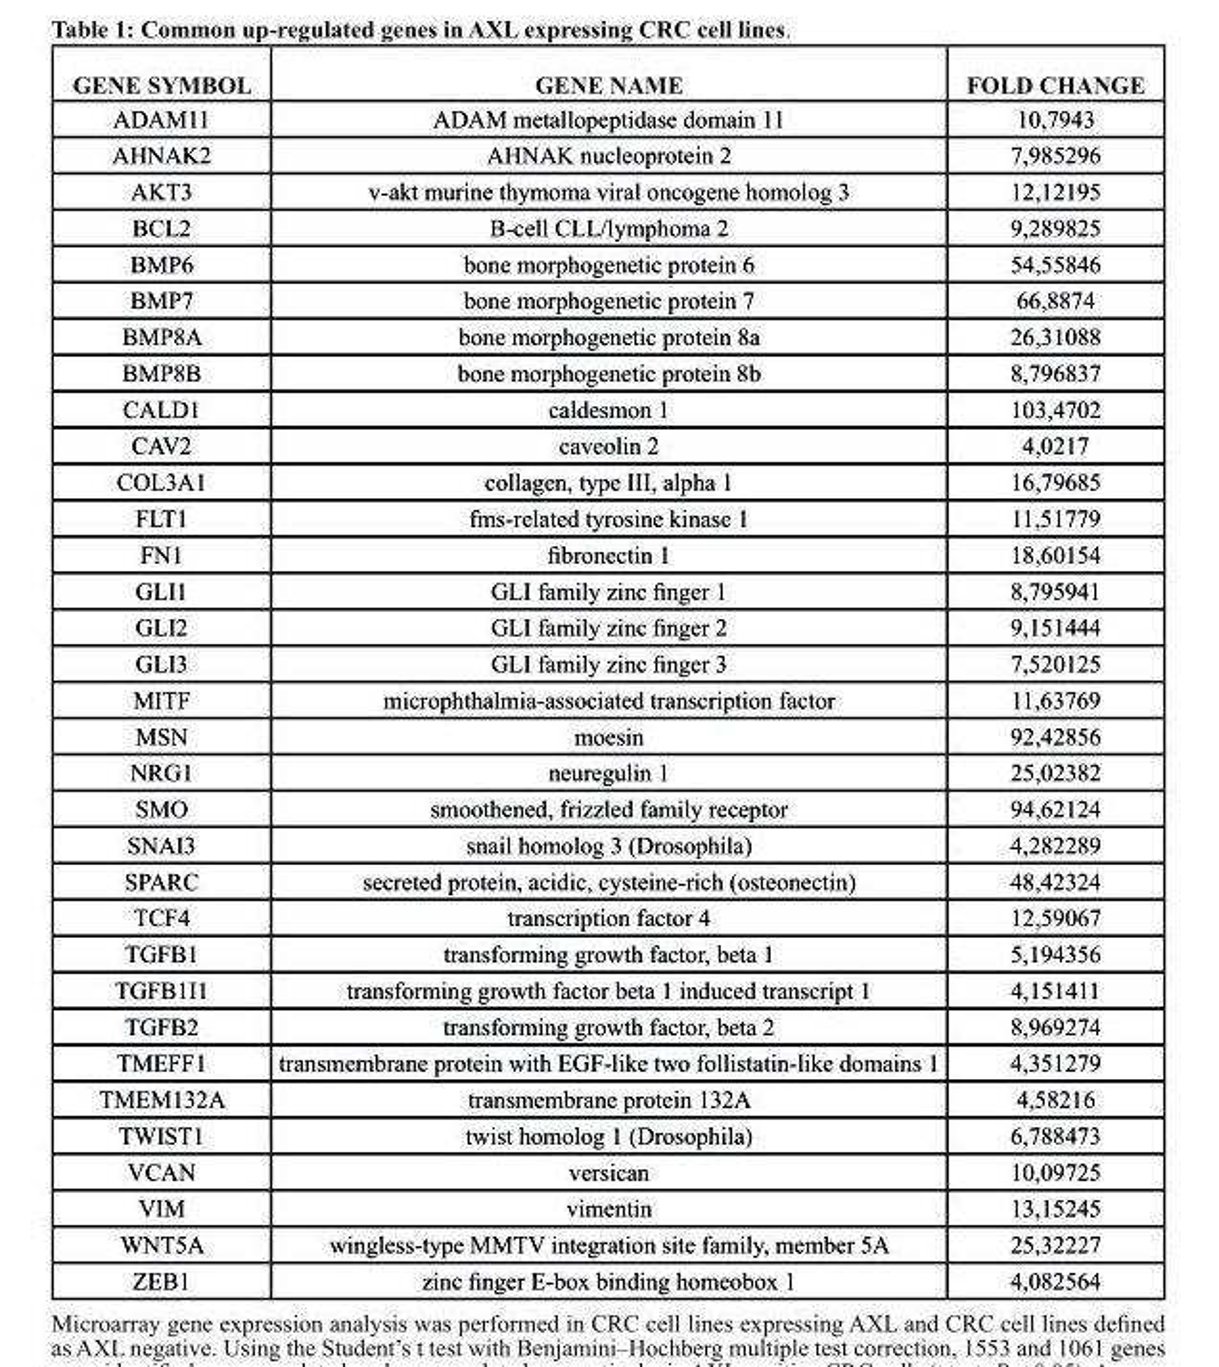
<table><thead><tr><td>GEnE sYMboL</td><td>GEnE nAME</td><td>FoLd cHAnGE</td></tr></thead><tbody><tr><td>ADAM11</td><td>ADAM metallopeptidase domain 11</td><td>10,7943</td></tr><tr><td>AHNAK2</td><td>AHNAK nucleoprotein 2</td><td>7,985296</td></tr><tr><td>AKT3</td><td>v-akt murine thymoma viral oncogene homolog 3</td><td>12,12195</td></tr><tr><td>BCL2</td><td>B-cell CLL/lymphoma 2</td><td>9,289825</td></tr><tr><td>BMP6</td><td>bone morphogenetic protein 6</td><td>54,55846</td></tr><tr><td>BMP7</td><td>bone morphogenetic protein 7</td><td>66,8874</td></tr><tr><td>BMP8A</td><td>bone morphogenetic protein 8a</td><td>26,31088</td></tr><tr><td>BMP8B</td><td>bone morphogenetic protein 8b</td><td>8,796837</td></tr><tr><td>CALD1</td><td>caldesmon 1</td><td>103,4702</td></tr><tr><td>CAV2</td><td>caveolin 2</td><td>4,0217</td></tr><tr><td>COL3A1</td><td>collagen, type III, alpha 1</td><td>16,79685</td></tr><tr><td>FLT1</td><td>fms-related tyrosine kinase 1</td><td>11,51779</td></tr><tr><td>FN1</td><td>fibronectin 1</td><td>18,60154</td></tr><tr><td>GLI1</td><td>GLI family zinc finger 1</td><td>8,795941</td></tr><tr><td>GLI2</td><td>GLI family zinc finger 2</td><td>9,151444</td></tr><tr><td>GLI3</td><td>GLI family zinc finger 3</td><td>7,520125</td></tr><tr><td>MITF</td><td>microphthalmia-associated transcription factor</td><td>11,63769</td></tr><tr><td>MSN</td><td>moesin</td><td>92,42856</td></tr><tr><td>NRG1</td><td>neuregulin 1</td><td>25,02382</td></tr><tr><td>SMO</td><td>smoothened, frizzled family receptor</td><td>94,62124</td></tr><tr><td>SNAI3</td><td>snail homolog 3 (Drosophila)</td><td>4,282289</td></tr><tr><td>SPARC</td><td>secreted protein, acidic, cysteine-rich (osteonectin)</td><td>48,42324</td></tr><tr><td>TCF4</td><td>transcription factor 4</td><td>12,59067</td></tr><tr><td>TGFB1</td><td>transforming growth factor, beta 1</td><td>5,194356</td></tr><tr><td>TGFB1I1</td><td>transforming growth factor beta 1 induced transcript 1</td><td>4,151411</td></tr><tr><td>TGFB2</td><td>transforming growth factor, beta 2</td><td>8,969274</td></tr><tr><td>TMEFF1</td><td>transmembrane protein with EGF-like two follistatin-like domains 1</td><td>4,351279</td></tr><tr><td>TMEM132A</td><td>transmembrane protein 132A</td><td>4,58216</td></tr><tr><td>TWIST1</td><td>twist homolog 1 (Drosophila)</td><td>6,788473</td></tr><tr><td>VCAN</td><td>versican</td><td>10,09725</td></tr><tr><td>VIM</td><td>vimentin</td><td>13,15245</td></tr><tr><td>WNT5A</td><td>wingless-type MMTV integration site family, member 5A</td><td>25,32227</td></tr><tr><td>ZEB1</td><td>zinc finger E-box binding homeobox 1</td><td>4,082564</td></tr></tbody></table>